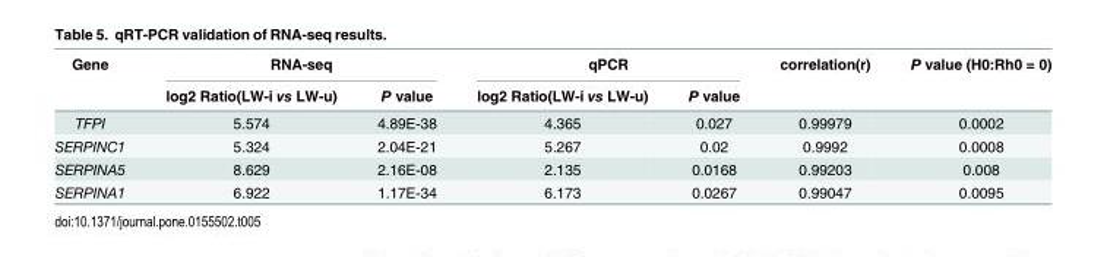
<table><thead><tr><td rowspan="2">Gene</td><td colspan="2">RNA-seq</td><td colspan="2">qPCR</td><td rowspan="2">correlation(r)</td><td rowspan="2">P value (H0:Rh0 = 0)</td></tr><tr><td>log2 Ratio(LW-i vs LW-u)</td><td>P value</td><td>log2 Ratio(LW-i vs LW-u)</td><td>P value</td></tr></thead><tbody><tr><td>TFPI</td><td>5.574</td><td>4.89E-38</td><td>4.365</td><td>0.027</td><td>0.99979</td><td>0.0002</td></tr><tr><td>SERPINC1</td><td>5.324</td><td>2.04E-21</td><td>5.267</td><td>0.02</td><td>0.9992</td><td>0.0008</td></tr><tr><td>SERPINA5</td><td>8.629</td><td>2.16E-08</td><td>2.135</td><td>0.0168</td><td>0.99203</td><td>0.008</td></tr><tr><td>SERPINA1</td><td>6.922</td><td>1.17E-34</td><td>6.173</td><td>0.0267</td><td>0.99047</td><td>0.0095</td></tr></tbody></table>